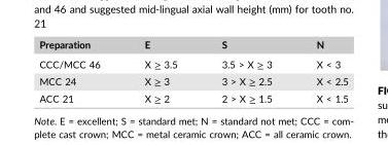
<table><thead><tr><td>Preparation</td><td>E</td><td>S</td><td>N</td></tr></thead><tbody><tr><td>CCC/MCC 46</td><td>X ≥ 3.5</td><td>3.5 &gt; X ≥ 3</td><td>X &lt; 3</td></tr><tr><td>MCC 24</td><td>X ≥ 3</td><td>3 &gt; X ≥ 2.5</td><td>X &lt; 2.5</td></tr><tr><td>ACC 21</td><td>X ≥ 2</td><td>2 &gt; X ≥ 1.5</td><td>X &lt; 1.5</td></tr></tbody></table>